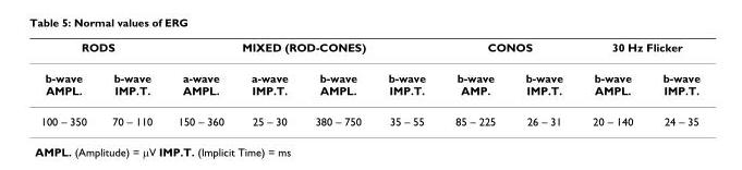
<table><thead><tr><td colspan="2">RODS</td><td colspan="4">MIXED (ROD-CONES)</td><td colspan="2">CONOS</td><td colspan="2">30 Hz Flicker</td></tr><tr><td>b-wave AMPL.</td><td>b-wave IMP.T.</td><td>a-wave AMPL.</td><td>a-wave IMP.T.</td><td>b-wave AMPL.</td><td>b-wave IMP.T.</td><td>b-wave AMP.</td><td>b-wave IMP.T.</td><td>b-wave AMPL.</td><td>b-wave IMP.T.</td></tr></thead><tbody><tr><td>100 – 350</td><td>70 – 110</td><td>150 – 360</td><td>25 – 30</td><td>380 – 750</td><td>35 – 55</td><td>85 – 225</td><td>26 – 31</td><td>20 – 140</td><td>24 – 35</td></tr></tbody></table>